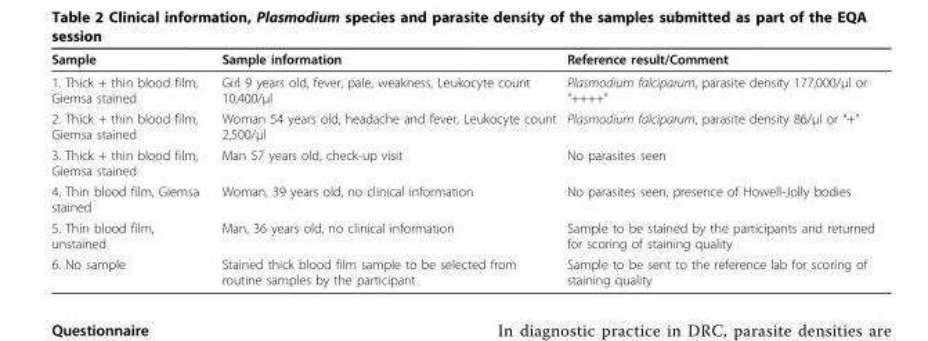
<table><thead><tr><td>Sample</td><td>Sample information</td><td>Reference result/Comment</td></tr></thead><tbody><tr><td>1. Thick + thin blood film, Giemsa stained</td><td>Girl 9 years old, fever, pale, weakness, Leukocyte count 10,400/μl</td><td>Plasmodium falciparum, parasite density 177,000/μl or “++++”</td></tr><tr><td>2. Thick + thin blood film, Giemsa stained</td><td>Woman 54 years old, headache and fever, Leukocyte count 2,500/μl</td><td>Plasmodium falciparum, parasite density 86/μl or “+”</td></tr><tr><td>3. Thick + thin blood film, Giemsa stained</td><td>Man 57 years old, check-up visit</td><td>No parasites seen</td></tr><tr><td>4. Thin blood film, Giemsa stained</td><td>Woman, 39 years old, no clinical information</td><td>No parasites seen, presence of Howell-Jolly bodies</td></tr><tr><td>5. Thin blood film, unstained</td><td>Man, 36 years old, no clinical information</td><td>Sample to be stained by the participants and returned for scoring of staining quality</td></tr><tr><td>6. No sample</td><td>Stained thick blood film sample to be selected from routine samples by the participant</td><td>Sample to be sent to the reference lab for scoring of staining quality</td></tr></tbody></table>